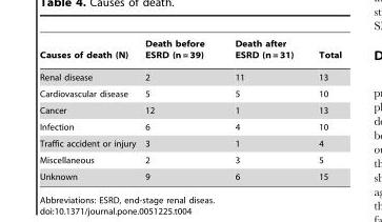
<table><thead><tr><td>Causes of death (N)</td><td>Death before ESRD (n = 39)</td><td>Death after ESRD (n = 31)</td><td>Total</td></tr></thead><tbody><tr><td>Renal disease</td><td>2</td><td>11</td><td>13</td></tr><tr><td>Cardiovascular disease</td><td>5</td><td>5</td><td>10</td></tr><tr><td>Cancer</td><td>12</td><td>1</td><td>13</td></tr><tr><td>Infection</td><td>6</td><td>4</td><td>10</td></tr><tr><td>Traffic accident or injury</td><td>3</td><td>1</td><td>4</td></tr><tr><td>Miscellaneous</td><td>2</td><td>3</td><td>5</td></tr><tr><td>Unknown</td><td>9</td><td>6</td><td>15</td></tr></tbody></table>